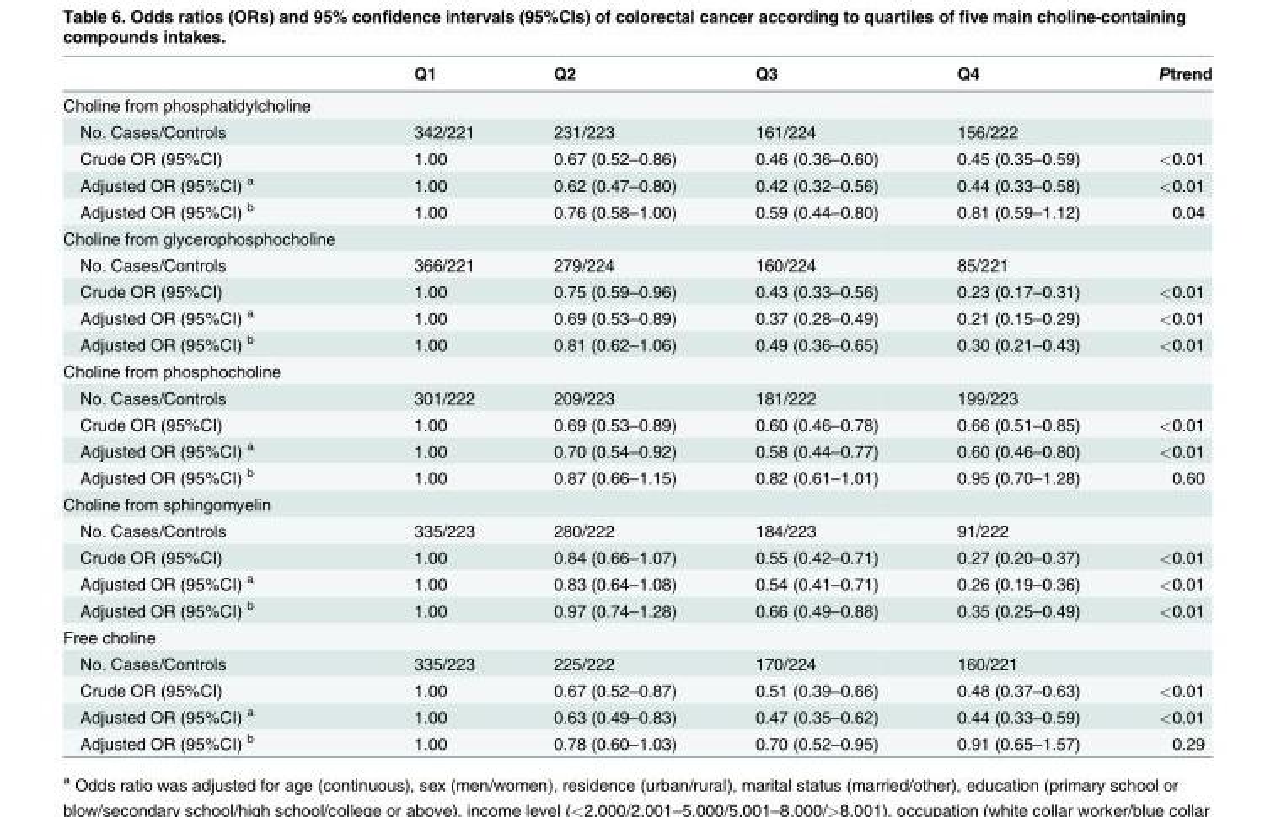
<table><thead><tr><td></td><td>Q1</td><td>Q2</td><td>Q3</td><td>Q4</td><td>Ptrend</td></tr></thead><tbody><tr><td colspan="6">Choline from phosphatidylcholine</td></tr><tr><td>No. Cases/Controls</td><td>342/221</td><td>231/223</td><td>161/224</td><td>156/222</td><td></td></tr><tr><td>Crude OR (95%CI)</td><td>1.00</td><td>0.67 (0.52–0.86)</td><td>0.46 (0.36–0.60)</td><td>0.45 (0.35–0.59)</td><td>&lt;0.01</td></tr><tr><td>Adjusted OR (95%CI) <sup>a</sup></td><td>1.00</td><td>0.62 (0.47–0.80)</td><td>0.42 (0.32–0.56)</td><td>0.44 (0.33–0.58)</td><td>&lt;0.01</td></tr><tr><td>Adjusted OR (95%CI) <sup>b</sup></td><td>1.00</td><td>0.76 (0.58–1.00)</td><td>0.59 (0.44–0.80)</td><td>0.81 (0.59–1.12)</td><td>0.04</td></tr><tr><td colspan="6">Choline from glycerophosphocholine</td></tr><tr><td>No. Cases/Controls</td><td>366/221</td><td>279/224</td><td>160/224</td><td>85/221</td><td></td></tr><tr><td>Crude OR (95%CI)</td><td>1.00</td><td>0.75 (0.59–0.96)</td><td>0.43 (0.33–0.56)</td><td>0.23 (0.17–0.31)</td><td>&lt;0.01</td></tr><tr><td>Adjusted OR (95%CI) <sup>a</sup></td><td>1.00</td><td>0.69 (0.53–0.89)</td><td>0.37 (0.28–0.49)</td><td>0.21 (0.15–0.29)</td><td>&lt;0.01</td></tr><tr><td>Adjusted OR (95%CI) <sup>b</sup></td><td>1.00</td><td>0.81 (0.62–1.06)</td><td>0.49 (0.36–0.65)</td><td>0.30 (0.21–0.43)</td><td>&lt;0.01</td></tr><tr><td colspan="6">Choline from phosphocholine</td></tr><tr><td>No. Cases/Controls</td><td>301/222</td><td>209/223</td><td>181/222</td><td>199/223</td><td></td></tr><tr><td>Crude OR (95%CI)</td><td>1.00</td><td>0.69 (0.53–0.89)</td><td>0.60 (0.46–0.78)</td><td>0.66 (0.51–0.85)</td><td>&lt;0.01</td></tr><tr><td>Adjusted OR (95%CI) <sup>a</sup></td><td>1.00</td><td>0.70 (0.54–0.92)</td><td>0.58 (0.44–0.77)</td><td>0.60 (0.46–0.80)</td><td>&lt;0.01</td></tr><tr><td>Adjusted OR (95%CI) <sup>b</sup></td><td>1.00</td><td>0.87 (0.66–1.15)</td><td>0.82 (0.61–1.01)</td><td>0.95 (0.70–1.28)</td><td>0.60</td></tr><tr><td colspan="6">Choline from sphingomyelin</td></tr><tr><td>No. Cases/Controls</td><td>335/223</td><td>280/222</td><td>184/223</td><td>91/222</td><td></td></tr><tr><td>Crude OR (95%CI)</td><td>1.00</td><td>0.84 (0.66–1.07)</td><td>0.55 (0.42–0.71)</td><td>0.27 (0.20–0.37)</td><td>&lt;0.01</td></tr><tr><td>Adjusted OR (95%CI) <sup>a</sup></td><td>1.00</td><td>0.83 (0.64–1.08)</td><td>0.54 (0.41–0.71)</td><td>0.26 (0.19–0.36)</td><td>&lt;0.01</td></tr><tr><td>Adjusted OR (95%CI) <sup>b</sup></td><td>1.00</td><td>0.97 (0.74–1.28)</td><td>0.66 (0.49–0.88)</td><td>0.35 (0.25–0.49)</td><td>&lt;0.01</td></tr><tr><td colspan="6">Free choline</td></tr><tr><td>No. Cases/Controls</td><td>335/223</td><td>225/222</td><td>170/224</td><td>160/221</td><td></td></tr><tr><td>Crude OR (95%CI)</td><td>1.00</td><td>0.67 (0.52–0.87)</td><td>0.51 (0.39–0.66)</td><td>0.48 (0.37–0.63)</td><td>&lt;0.01</td></tr><tr><td>Adjusted OR (95%CI) <sup>a</sup></td><td>1.00</td><td>0.63 (0.49–0.83)</td><td>0.47 (0.35–0.62)</td><td>0.44 (0.33–0.59)</td><td>&lt;0.01</td></tr><tr><td>Adjusted OR (95%CI) <sup>b</sup></td><td>1.00</td><td>0.78 (0.60–1.03)</td><td>0.70 (0.52–0.95)</td><td>0.91 (0.65–1.57)</td><td>0.29</td></tr></tbody></table>